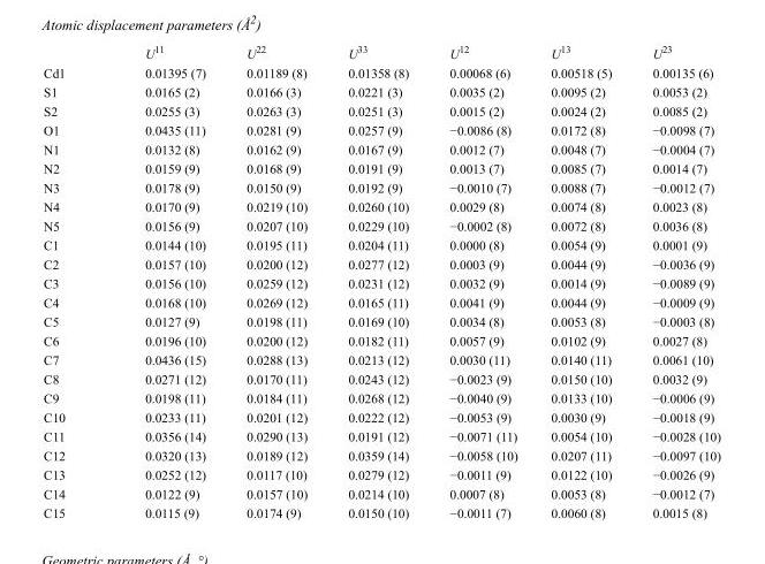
<table><thead><tr><td></td><td>U<sup>11</sup></td><td>U<sup>22</sup></td><td>U<sup>33</sup></td><td>U<sup>12</sup></td><td>U<sup>13</sup></td><td>U<sup>23</sup></td></tr></thead><tbody><tr><td>Cd1</td><td>0.01395 (7)</td><td>0.01189 (8)</td><td>0.01358 (8)</td><td>0.00068 (6)</td><td>0.00518 (5)</td><td>0.00135 (6)</td></tr><tr><td>S1</td><td>0.0165 (2)</td><td>0.0166 (3)</td><td>0.0221 (3)</td><td>0.0035 (2)</td><td>0.0095 (2)</td><td>0.0053 (2)</td></tr><tr><td>S2</td><td>0.0255 (3)</td><td>0.0263 (3)</td><td>0.0251 (3)</td><td>0.0015 (2)</td><td>0.0024 (2)</td><td>0.0085 (2)</td></tr><tr><td>O1</td><td>0.0435 (11)</td><td>0.0281 (9)</td><td>0.0257 (9)</td><td>−0.0086 (8)</td><td>0.0172 (8)</td><td>−0.0098 (7)</td></tr><tr><td>N1</td><td>0.0132 (8)</td><td>0.0162 (9)</td><td>0.0167 (9)</td><td>0.0012 (7)</td><td>0.0048 (7)</td><td>−0.0004 (7)</td></tr><tr><td>N2</td><td>0.0159 (9)</td><td>0.0168 (9)</td><td>0.0191 (9)</td><td>0.0013 (7)</td><td>0.0085 (7)</td><td>0.0014 (7)</td></tr><tr><td>N3</td><td>0.0178 (9)</td><td>0.0150 (9)</td><td>0.0192 (9)</td><td>−0.0010 (7)</td><td>0.0088 (7)</td><td>−0.0012 (7)</td></tr><tr><td>N4</td><td>0.0170 (9)</td><td>0.0219 (10)</td><td>0.0260 (10)</td><td>0.0029 (8)</td><td>0.0074 (8)</td><td>0.0023 (8)</td></tr><tr><td>N5</td><td>0.0156 (9)</td><td>0.0207 (10)</td><td>0.0229 (10)</td><td>−0.0002 (8)</td><td>0.0072 (8)</td><td>0.0036 (8)</td></tr><tr><td>C1</td><td>0.0144 (10)</td><td>0.0195 (11)</td><td>0.0204 (11)</td><td>0.0000 (8)</td><td>0.0054 (9)</td><td>0.0001 (9)</td></tr><tr><td>C2</td><td>0.0157 (10)</td><td>0.0200 (12)</td><td>0.0277 (12)</td><td>0.0003 (9)</td><td>0.0044 (9)</td><td>−0.0036 (9)</td></tr><tr><td>C3</td><td>0.0156 (10)</td><td>0.0259 (12)</td><td>0.0231 (12)</td><td>0.0032 (9)</td><td>0.0014 (9)</td><td>−0.0089 (9)</td></tr><tr><td>C4</td><td>0.0168 (10)</td><td>0.0269 (12)</td><td>0.0165 (11)</td><td>0.0041 (9)</td><td>0.0044 (9)</td><td>−0.0009 (9)</td></tr><tr><td>C5</td><td>0.0127 (9)</td><td>0.0198 (11)</td><td>0.0169 (10)</td><td>0.0034 (8)</td><td>0.0053 (8)</td><td>−0.0003 (8)</td></tr><tr><td>C6</td><td>0.0196 (10)</td><td>0.0200 (12)</td><td>0.0182 (11)</td><td>0.0057 (9)</td><td>0.0102 (9)</td><td>0.0027 (8)</td></tr><tr><td>C7</td><td>0.0436 (15)</td><td>0.0288 (13)</td><td>0.0213 (12)</td><td>0.0030 (11)</td><td>0.0140 (11)</td><td>0.0061 (10)</td></tr><tr><td>C8</td><td>0.0271 (12)</td><td>0.0170 (11)</td><td>0.0243 (12)</td><td>−0.0023 (9)</td><td>0.0150 (10)</td><td>0.0032 (9)</td></tr><tr><td>C9</td><td>0.0198 (11)</td><td>0.0184 (11)</td><td>0.0268 (12)</td><td>−0.0040 (9)</td><td>0.0133 (10)</td><td>−0.0006 (9)</td></tr><tr><td>C10</td><td>0.0233 (11)</td><td>0.0201 (12)</td><td>0.0222 (12)</td><td>−0.0053 (9)</td><td>0.0030 (9)</td><td>−0.0018 (9)</td></tr><tr><td>C11</td><td>0.0356 (14)</td><td>0.0290 (13)</td><td>0.0191 (12)</td><td>−0.0071 (11)</td><td>0.0054 (10)</td><td>−0.0028 (10)</td></tr><tr><td>C12</td><td>0.0320 (13)</td><td>0.0189 (12)</td><td>0.0359 (14)</td><td>−0.0058 (10)</td><td>0.0207 (11)</td><td>−0.0097 (10)</td></tr><tr><td>C13</td><td>0.0252 (12)</td><td>0.0117 (10)</td><td>0.0279 (12)</td><td>−0.0011 (9)</td><td>0.0122 (10)</td><td>−0.0026 (9)</td></tr><tr><td>C14</td><td>0.0122 (9)</td><td>0.0157 (10)</td><td>0.0214 (10)</td><td>0.0007 (8)</td><td>0.0053 (8)</td><td>−0.0012 (7)</td></tr><tr><td>C15</td><td>0.0115 (9)</td><td>0.0174 (9)</td><td>0.0150 (10)</td><td>−0.0011 (7)</td><td>0.0060 (8)</td><td>0.0015 (8)</td></tr></tbody></table>